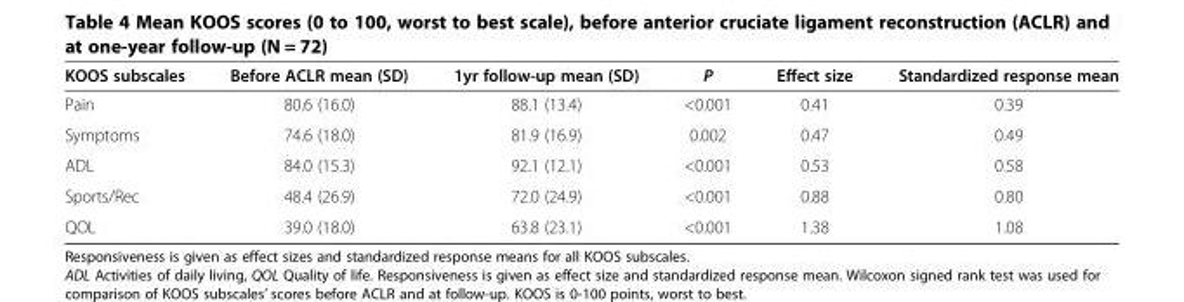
<table><thead><tr><td>KOOS subscales</td><td>Before ACLR mean (SD)</td><td>1yr follow-up mean (SD)</td><td>P</td><td>Effect size</td><td>Standardized response mean</td></tr></thead><tbody><tr><td>Pain</td><td>80.6 (16.0)</td><td>88.1 (13.4)</td><td>&lt;0.001</td><td>0.41</td><td>0.39</td></tr><tr><td>Symptoms</td><td>74.6 (18.0)</td><td>81.9 (16.9)</td><td>0.002</td><td>0.47</td><td>0.49</td></tr><tr><td>ADL</td><td>84.0 (15.3)</td><td>92.1 (12.1)</td><td>&lt;0.001</td><td>0.53</td><td>0.58</td></tr><tr><td>Sports/Rec</td><td>48.4 (26.9)</td><td>72.0 (24.9)</td><td>&lt;0.001</td><td>0.88</td><td>0.80</td></tr><tr><td>QOL</td><td>39.0 (18.0)</td><td>63.8 (23.1)</td><td>&lt;0.001</td><td>1.38</td><td>1.08</td></tr></tbody></table>